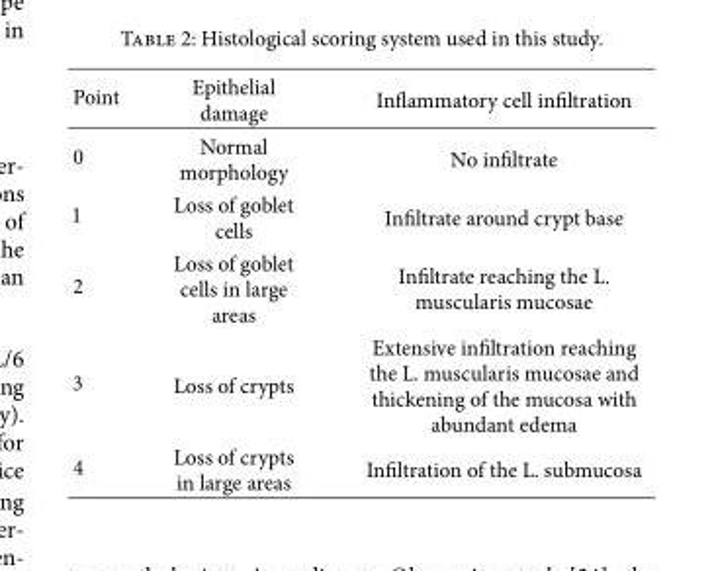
<table><thead><tr><td>Point</td><td>Epithelial damage</td><td>Inflammatory cell infiltration</td></tr></thead><tbody><tr><td>0</td><td>Normal morphology</td><td>No infiltrate</td></tr><tr><td>1</td><td>Loss of goblet cells</td><td>Infiltrate around crypt base</td></tr><tr><td>2</td><td>Loss of goblet cells in large areas</td><td>Infiltrate reaching the L. muscularis mucosae</td></tr><tr><td>3</td><td>Loss of crypts</td><td>Extensive infiltration reaching the L. muscularis mucosae and thickening of the mucosa with abundant edema</td></tr><tr><td>4</td><td>Loss of crypts in large areas</td><td>Infiltration of the L. submucosa</td></tr></tbody></table>